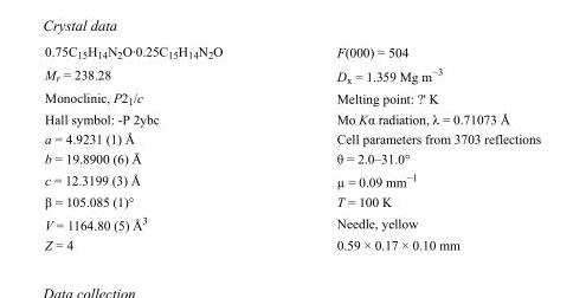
<table><tbody><tr><td>0.75C<sub>15</sub>H<sub>14</sub>N<sub>2</sub>O·0.25C<sub>15</sub>H<sub>14</sub>N<sub>2</sub>O</td><td>F(000) = 504</td></tr><tr><td>M<sub>r</sub> = 238.28</td><td>D<sub>x</sub> = 1.359 Mg m<sup>−3</sup></td></tr><tr><td>Monoclinic, P2<sub>1</sub>/c</td><td>Melting point: ?&#x27; K</td></tr><tr><td>Hall symbol: -P 2ybc</td><td>Mo Kα radiation, λ = 0.71073 Å</td></tr><tr><td>a = 4.9231 (1) Å</td><td>Cell parameters from 3703 reflections</td></tr><tr><td>b = 19.8900 (6) Å</td><td>θ = 2.0–31.0°</td></tr><tr><td>c = 12.3199 (3) Å</td><td>µ = 0.09 mm<sup>−1</sup></td></tr><tr><td>β = 105.085 (1)°</td><td>T = 100 K</td></tr><tr><td>V = 1164.80 (5) Å<sup>3</sup></td><td>Needle, yellow</td></tr><tr><td>Z = 4</td><td>0.59 × 0.17 × 0.10 mm</td></tr></tbody></table>